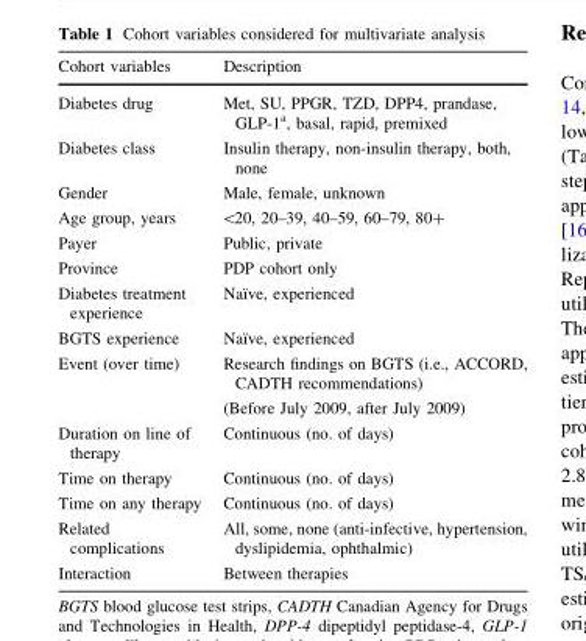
<table><thead><tr><td>Cohort variables</td><td>Description</td></tr></thead><tbody><tr><td>Diabetes drug</td><td>Met, SU, PPGR, TZD, DPP4, prandase, GLP-1<sup>a</sup>, basal, rapid, premixed</td></tr><tr><td>Diabetes class</td><td>Insulin therapy, non-insulin therapy, both, none</td></tr><tr><td>Gender</td><td>Male, female, unknown</td></tr><tr><td>Age group, years</td><td>&lt;20, 20–39, 40–59, 60–79, 80+</td></tr><tr><td>Payer</td><td>Public, private</td></tr><tr><td>Province</td><td>PDP cohort only</td></tr><tr><td>Diabetes treatment experience</td><td>Naı¨ve, experienced</td></tr><tr><td>BGTS experience</td><td>Naı¨ve, experienced</td></tr><tr><td>Event (over time)</td><td>Research findings on BGTS (i.e., ACCORD, CADTH recommendations) (Before July 2009, after July 2009)</td></tr><tr><td>Duration on line of therapy</td><td>Continuous (no. of days)</td></tr><tr><td>Time on therapy</td><td>Continuous (no. of days)</td></tr><tr><td>Time on any therapy</td><td>Continuous (no. of days)</td></tr><tr><td>Related complications</td><td>All, some, none (anti-infective, hypertension, dyslipidemia, ophthalmic)</td></tr><tr><td>Interaction</td><td>Between therapies</td></tr></tbody></table>